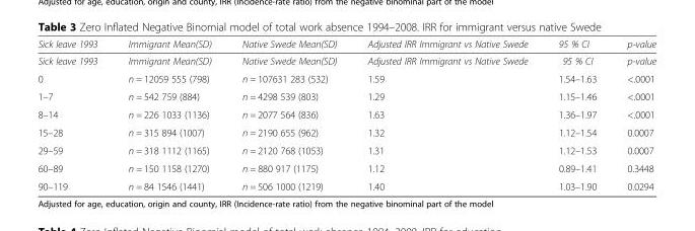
<table><thead><tr><td>Sick leave 1993</td><td>Immigrant Mean(SD)</td><td>Native Swede Mean(SD)</td><td>Adjusted IRR Immigrant vs Native Swede</td><td>95 % CI</td><td>p-value</td></tr></thead><tbody><tr><td>Sick leave 1993</td><td>Immigrant Mean(SD)</td><td>Native Swede Mean(SD)</td><td>Adjusted IRR Immigrant vs Native Swede</td><td>95 % CI</td><td>p-value</td></tr><tr><td>0</td><td>n = 12059 555 (798)</td><td>n = 107631 283 (532)</td><td>1.59</td><td>1.54–1.63</td><td>&lt;.0001</td></tr><tr><td>1–7</td><td>n = 542 759 (884)</td><td>n = 4298 539 (803)</td><td>1.29</td><td>1.15–1.46</td><td>&lt;.0001</td></tr><tr><td>8–14</td><td>n = 226 1033 (1136)</td><td>n = 2077 564 (836)</td><td>1.63</td><td>1.36–1.97</td><td>&lt;.0001</td></tr><tr><td>15–28</td><td>n = 315 894 (1007)</td><td>n = 2190 655 (962)</td><td>1.32</td><td>1.12–1.54</td><td>0.0007</td></tr><tr><td>29–59</td><td>n = 318 1112 (1165)</td><td>n = 2120 768 (1053)</td><td>1.31</td><td>1.12–1.53</td><td>0.0007</td></tr><tr><td>60–89</td><td>n = 150 1158 (1270)</td><td>n = 880 917 (1175)</td><td>1.12</td><td>0.89–1.41</td><td>0.3448</td></tr><tr><td>90–119</td><td>n = 84 1546 (1441)</td><td>n = 506 1000 (1219)</td><td>1.40</td><td>1.03–1.90</td><td>0.0294</td></tr></tbody></table>